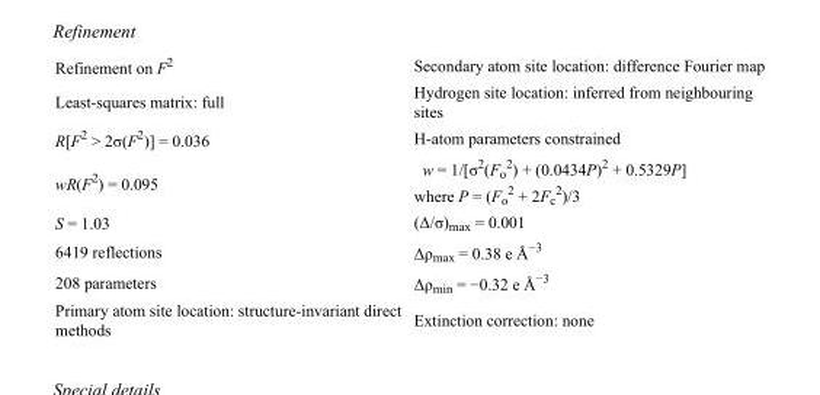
<table><tbody><tr><td>Refinement on F<sup>2</sup></td><td>Secondary atom site location: difference Fourier map</td></tr><tr><td>Least-squares matrix: full</td><td>Hydrogen site location: inferred from neighbouring sites</td></tr><tr><td>R[F<sup>2</sup> &gt; 2σ(F<sup>2</sup>)] = 0.036</td><td>H-atom parameters constrained</td></tr><tr><td>wR(F<sup>2</sup>) = 0.095</td><td>w = 1/[σ<sup>2</sup>(F<sub>o</sub> <sup>2</sup>) + (0.0434P)<sup>2</sup> + 0.5329P] where P = (F<sub>o</sub> <sup>2</sup> + 2F<sub>c</sub> <sup>2</sup>)/3</td></tr><tr><td>S = 1.03</td><td>(Δ/σ)<sub>max</sub> = 0.001</td></tr><tr><td>6419 reflections</td><td>Δρ<sub>max</sub> = 0.38 e Å<sup>−3</sup></td></tr><tr><td>208 parameters</td><td>Δρ<sub>min</sub> = −0.32 e Å<sup>−3</sup></td></tr><tr><td>Primary atom site location: structure-invariant direct methods</td><td>Extinction correction: none</td></tr></tbody></table>